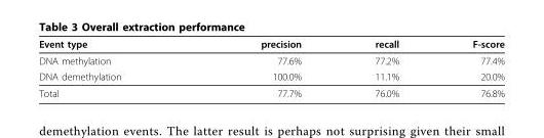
<table><thead><tr><td>Event type</td><td>precision</td><td>recall</td><td>F-score</td></tr></thead><tbody><tr><td>DNA methylation</td><td>77.6%</td><td>77.2%</td><td>77.4%</td></tr><tr><td>DNA demethylation</td><td>100.0%</td><td>11.1%</td><td>20.0%</td></tr><tr><td>Total</td><td>77.7%</td><td>76.0%</td><td>76.8%</td></tr></tbody></table>